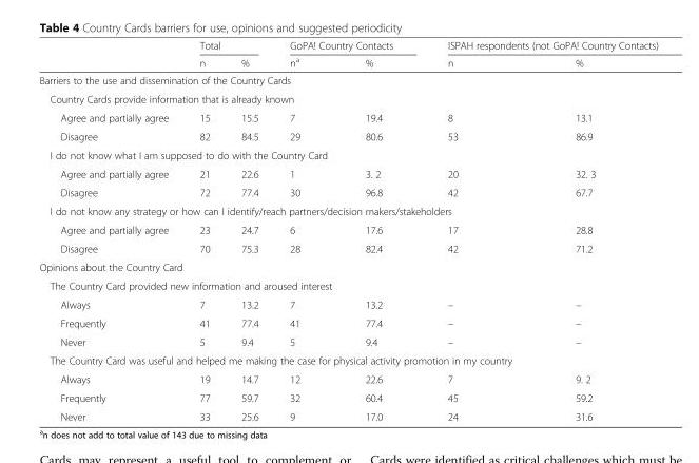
<table><thead><tr><td rowspan="2"></td><td colspan="2">Total</td><td colspan="2">GoPA! Country Contacts</td><td colspan="2">ISPAH respondents (not GoPA! Country Contacts)</td></tr><tr><td>n</td><td>%</td><td>n<sup>a</sup></td><td>%</td><td>n</td><td>%</td></tr></thead><tbody><tr><td colspan="7">Barriers to the use and dissemination of the Country Cards</td></tr><tr><td colspan="7">Country Cards provide information that is already known</td></tr><tr><td>Agree and partially agree</td><td>15</td><td>15.5</td><td>7</td><td>19.4</td><td>8</td><td>13.1</td></tr><tr><td>Disagree</td><td>82</td><td>84.5</td><td>29</td><td>80.6</td><td>53</td><td>86.9</td></tr><tr><td colspan="7">I do not know what I am supposed to do with the Country Card</td></tr><tr><td>Agree and partially agree</td><td>21</td><td>22.6</td><td>1</td><td>3. 2</td><td>20</td><td>32. 3</td></tr><tr><td>Disagree</td><td>72</td><td>77.4</td><td>30</td><td>96.8</td><td>42</td><td>67.7</td></tr><tr><td colspan="7">I do not know any strategy or how can I identify/reach partners/decision makers/stakeholders</td></tr><tr><td>Agree and partially agree</td><td>23</td><td>24.7</td><td>6</td><td>17.6</td><td>17</td><td>28.8</td></tr><tr><td>Disagree</td><td>70</td><td>75.3</td><td>28</td><td>82.4</td><td>42</td><td>71.2</td></tr><tr><td colspan="7">Opinions about the Country Card</td></tr><tr><td colspan="7">The Country Card provided new information and aroused interest</td></tr><tr><td>Always</td><td>7</td><td>13.2</td><td>7</td><td>13.2</td><td>–</td><td>–</td></tr><tr><td>Frequently</td><td>41</td><td>77.4</td><td>41</td><td>77.4</td><td>–</td><td>–</td></tr><tr><td>Never</td><td>5</td><td>9.4</td><td>5</td><td>9.4</td><td>–</td><td>–</td></tr><tr><td colspan="7">The Country Card was useful and helped me making the case for physical activity promotion in my country</td></tr><tr><td>Always</td><td>19</td><td>14.7</td><td>12</td><td>22.6</td><td>7</td><td>9. 2</td></tr><tr><td>Frequently</td><td>77</td><td>59.7</td><td>32</td><td>60.4</td><td>45</td><td>59.2</td></tr><tr><td>Never</td><td>33</td><td>25.6</td><td>9</td><td>17.0</td><td>24</td><td>31.6</td></tr></tbody></table>